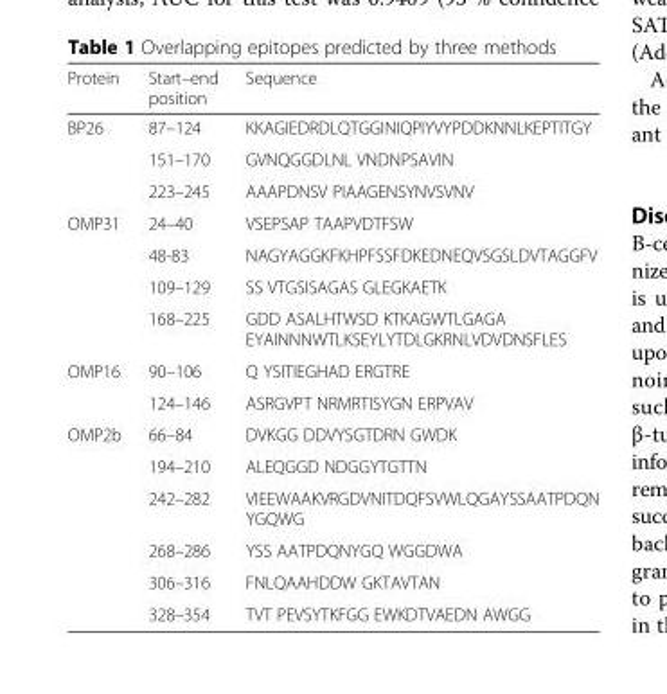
<table><thead><tr><td>Protein</td><td>Start–end position</td><td>Sequence</td></tr></thead><tbody><tr><td rowspan="3">BP26</td><td>87–124</td><td>KKAGIEDRDLQTGGINIQPIYVYPDDKNNLKEPTITGY</td></tr><tr><td>151–170</td><td>GVNQGGDLNL VNDNPSAVIN</td></tr><tr><td>223–245</td><td>AAAPDNSV PIAAGENSYNVSVNV</td></tr><tr><td rowspan="4">OMP31</td><td>24–40</td><td>VSEPSAP TAAPVDTFSW</td></tr><tr><td>48-83</td><td>NAGYAGGKFKHPFSSFDKEDNEQVSGSLDVTAGGFV</td></tr><tr><td>109–129</td><td>SS VTGSISAGAS GLEGKAETK</td></tr><tr><td>168–225</td><td>GDD ASALHTWSD KTKAGWTLGAGA EYAINNNWTLKSEYLYTDLGKRNLVDVDNSFLES</td></tr><tr><td rowspan="2">OMP16</td><td>90–106</td><td>Q YSITIEGHAD ERGTRE</td></tr><tr><td>124–146</td><td>ASRGVPT NRMRTISYGN ERPVAV</td></tr><tr><td rowspan="6">OMP2b</td><td>66–84</td><td>DVKGG DDVYSGTDRN GWDK</td></tr><tr><td>194–210</td><td>ALEQGGD NDGGYTGTTN</td></tr><tr><td>242–282</td><td>VIEEWAAKVRGDVNITDQFSVWLQGAYSSAATPDQN YGQWG</td></tr><tr><td>268–286</td><td>YSS AATPDQNYGQ WGGDWA</td></tr><tr><td>306–316</td><td>FNLQAAHDDW GKTAVTAN</td></tr><tr><td>328–354</td><td>TVT PEVSYTKFGG EWKDTVAEDN AWGG</td></tr></tbody></table>